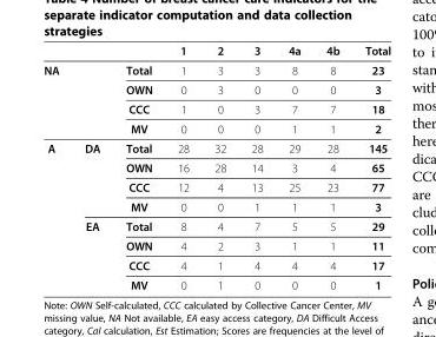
<table><thead><tr><td></td><td></td><td></td><td>1</td><td>2</td><td>3</td><td>4a</td><td>4b</td><td>Total</td></tr></thead><tbody><tr><td rowspan="4">NA</td><td rowspan="4"></td><td>Total</td><td>1</td><td>3</td><td>3</td><td>8</td><td>8</td><td>23</td></tr><tr><td>OWN</td><td>0</td><td>3</td><td>0</td><td>0</td><td>0</td><td>3</td></tr><tr><td>CCC</td><td>1</td><td>0</td><td>3</td><td>7</td><td>7</td><td>18</td></tr><tr><td>MV</td><td>0</td><td>0</td><td>0</td><td>1</td><td>1</td><td>2</td></tr><tr><td rowspan="8">A</td><td rowspan="4">DA</td><td>Total</td><td>28</td><td>32</td><td>28</td><td>29</td><td>28</td><td>145</td></tr><tr><td>OWN</td><td>16</td><td>28</td><td>14</td><td>3</td><td>4</td><td>65</td></tr><tr><td>CCC</td><td>12</td><td>4</td><td>13</td><td>25</td><td>23</td><td>77</td></tr><tr><td>MV</td><td>0</td><td>0</td><td>1</td><td>1</td><td>1</td><td>3</td></tr><tr><td rowspan="4">EA</td><td>Total</td><td>8</td><td>4</td><td>7</td><td>5</td><td>5</td><td>29</td></tr><tr><td>OWN</td><td>4</td><td>2</td><td>3</td><td>1</td><td>1</td><td>11</td></tr><tr><td>CCC</td><td>4</td><td>1</td><td>4</td><td>4</td><td>4</td><td>17</td></tr><tr><td>MV</td><td>0</td><td>1</td><td>0</td><td>0</td><td>0</td><td>1</td></tr></tbody></table>